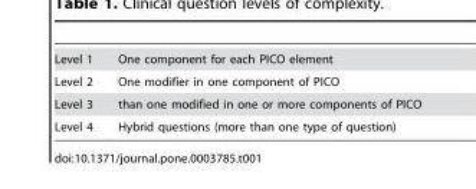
<table><tbody><tr><td>Level 1</td><td>One component for each PICO element</td></tr><tr><td>Level 2</td><td>One modifier in one component of PICO</td></tr><tr><td>Level 3</td><td>than one modified in one or more components of PICO</td></tr><tr><td>Level 4</td><td>Hybrid questions (more than one type of question)</td></tr></tbody></table>